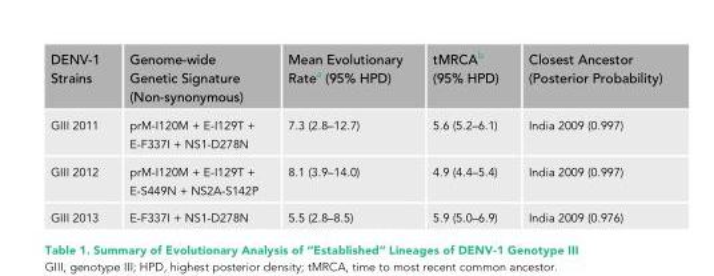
<table><thead><tr><td>DENV-1 Strains</td><td>Genome-wide Genetic Signature (Non-synonymous)</td><td>Mean Evolutionary Rate<sup>a</sup> (95% HPD)</td><td>tMRCA<sup>b</sup> (95% HPD)</td><td>Closest Ancestor (Posterior Probability)</td></tr></thead><tbody><tr><td>GIII 2011</td><td>prM-I120M + E-I129T + E-F337I + NS1-D278N</td><td>7.3 (2.8–12.7)</td><td>5.6 (5.2–6.1)</td><td>India 2009 (0.997)</td></tr><tr><td>GIII 2012</td><td>prM-I120M + E-I129T + E-S449N + NS2A-S142P</td><td>8.1 (3.9–14.0)</td><td>4.9 (4.4–5.4)</td><td>India 2009 (0.997)</td></tr><tr><td>GIII 2013</td><td>E-F337I + NS1-D278N</td><td>5.5 (2.8–8.5)</td><td>5.9 (5.0–6.9)</td><td>India 2009 (0.976)</td></tr></tbody></table>